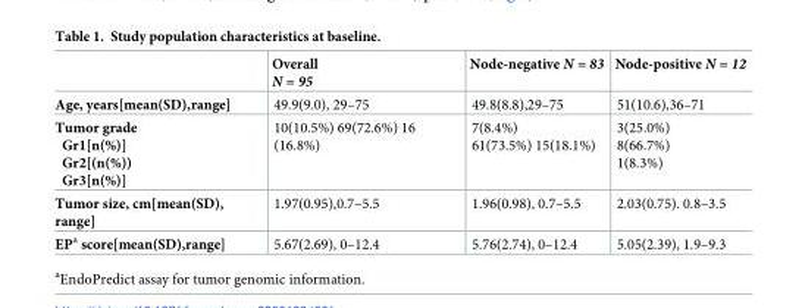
<table><thead><tr><td></td><td>Overall N = 95</td><td>Node-negative N = 83</td><td>Node-positive N = 12</td></tr></thead><tbody><tr><td>Age, years[mean(SD),range]</td><td>49.9(9.0), 29–75</td><td>49.8(8.8),29–75</td><td>51(10.6),36–71</td></tr><tr><td>Tumor grade Gr1[n(%)] Gr2[(n(%)) Gr3[n(%)]</td><td>10(10.5%) 69(72.6%) 16 (16.8%)</td><td>7(8.4%) 61(73.5%) 15(18.1%)</td><td>3(25.0%) 8(66.7%) 1(8.3%)</td></tr><tr><td>Tumor size, cm[mean(SD), range]</td><td>1.97(0.95),0.7–5.5</td><td>1.96(0.98), 0.7–5.5</td><td>2.03(0.75). 0.8–3.5</td></tr><tr><td>EP<sup>a</sup> score[mean(SD),range]</td><td>5.67(2.69), 0–12.4</td><td>5.76(2.74), 0–12.4</td><td>5.05(2.39), 1.9–9.3</td></tr></tbody></table>